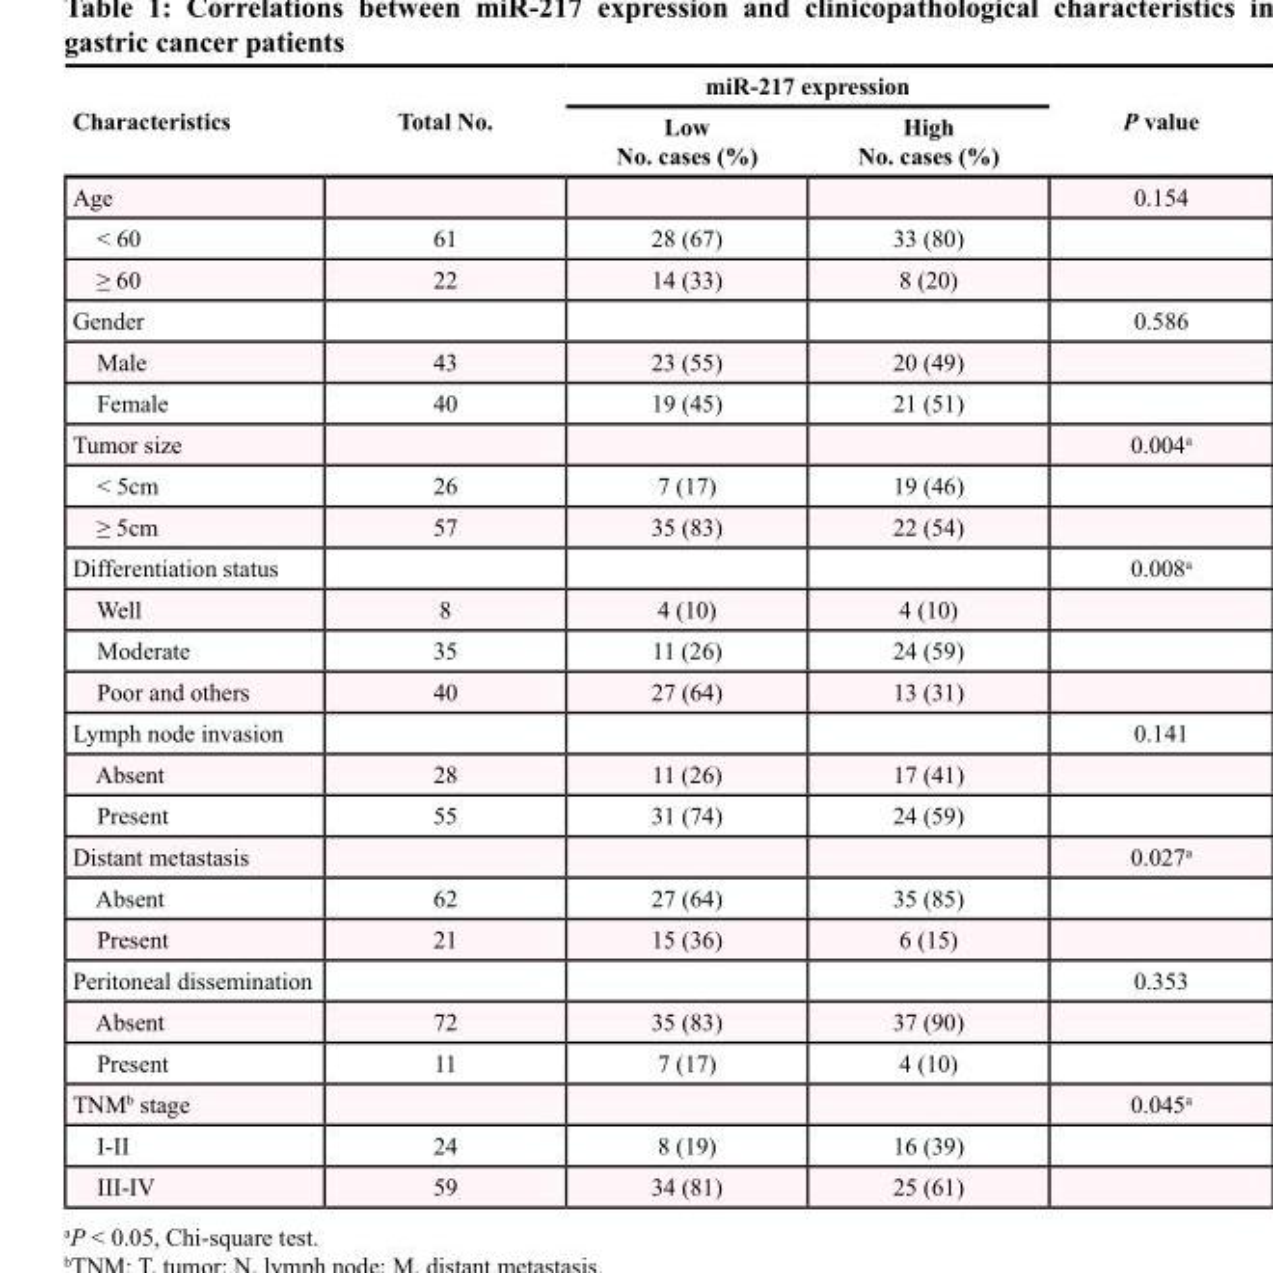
<table><thead><tr><td rowspan="2">Characteristics</td><td rowspan="2">Total No.</td><td colspan="2">miR-217 expression</td><td rowspan="2">P value</td></tr><tr><td>Low No. cases (%)</td><td>High No. cases (%)</td></tr></thead><tbody><tr><td>Age</td><td></td><td></td><td></td><td>0.154</td></tr><tr><td>&lt; 60</td><td>61</td><td>28 (67)</td><td>33 (80)</td><td></td></tr><tr><td>≥ 60</td><td>22</td><td>14 (33)</td><td>8 (20)</td><td></td></tr><tr><td>Gender</td><td></td><td></td><td></td><td>0.586</td></tr><tr><td>Male</td><td>43</td><td>23 (55)</td><td>20 (49)</td><td></td></tr><tr><td>Female</td><td>40</td><td>19 (45)</td><td>21 (51)</td><td></td></tr><tr><td>Tumor size</td><td></td><td></td><td></td><td>0.004<sup>a</sup></td></tr><tr><td>&lt; 5cm</td><td>26</td><td>7 (17)</td><td>19 (46)</td><td></td></tr><tr><td>≥ 5cm</td><td>57</td><td>35 (83)</td><td>22 (54)</td><td></td></tr><tr><td>Differentiation status</td><td></td><td></td><td></td><td>0.008<sup>a</sup></td></tr><tr><td>Well</td><td>8</td><td>4 (10)</td><td>4 (10)</td><td></td></tr><tr><td>Moderate</td><td>35</td><td>11 (26)</td><td>24 (59)</td><td></td></tr><tr><td>Poor and others</td><td>40</td><td>27 (64)</td><td>13 (31)</td><td></td></tr><tr><td>Lymph node invasion</td><td></td><td></td><td></td><td>0.141</td></tr><tr><td>Absent</td><td>28</td><td>11 (26)</td><td>17 (41)</td><td></td></tr><tr><td>Present</td><td>55</td><td>31 (74)</td><td>24 (59)</td><td></td></tr><tr><td>Distant metastasis</td><td></td><td></td><td></td><td>0.027<sup>a</sup></td></tr><tr><td>Absent</td><td>62</td><td>27 (64)</td><td>35 (85)</td><td></td></tr><tr><td>Present</td><td>21</td><td>15 (36)</td><td>6 (15)</td><td></td></tr><tr><td>Peritoneal dissemination</td><td></td><td></td><td></td><td>0.353</td></tr><tr><td>Absent</td><td>72</td><td>35 (83)</td><td>37 (90)</td><td></td></tr><tr><td>Present</td><td>11</td><td>7 (17)</td><td>4 (10)</td><td></td></tr><tr><td>TNM<sup>b</sup> stage</td><td></td><td></td><td></td><td>0.045<sup>a</sup></td></tr><tr><td>I-II</td><td>24</td><td>8 (19)</td><td>16 (39)</td><td></td></tr><tr><td>III-IV</td><td>59</td><td>34 (81)</td><td>25 (61)</td><td></td></tr></tbody></table>